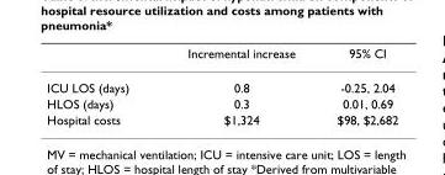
<table><thead><tr><td></td><td>Incremental increase</td><td>95% CI</td></tr></thead><tbody><tr><td>ICU LOS (days)</td><td>0.8</td><td>-0.25, 2.04</td></tr><tr><td>HLOS (days)</td><td>0.3</td><td>0.01, 0.69</td></tr><tr><td>Hospital costs</td><td>$1,324</td><td>$98, $2,682</td></tr></tbody></table>